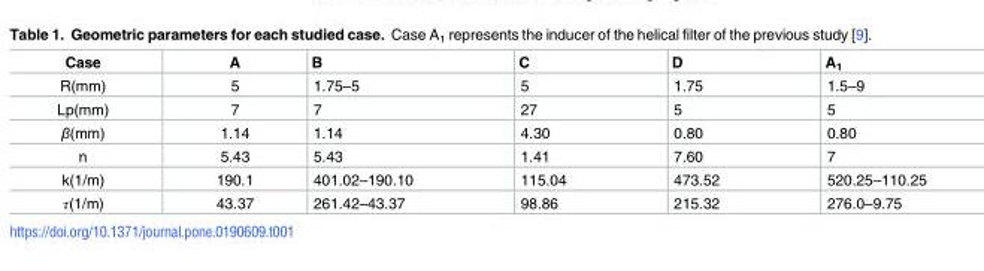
<table><thead><tr><td>Case</td><td>A</td><td>B</td><td>C</td><td>D</td><td>A<sub>1</sub></td></tr></thead><tbody><tr><td>R(mm)</td><td>5</td><td>1.75–5</td><td>5</td><td>1.75</td><td>1.5–9</td></tr><tr><td>Lp(mm)</td><td>7</td><td>7</td><td>27</td><td>5</td><td>5</td></tr><tr><td>β(mm)</td><td>1.14</td><td>1.14</td><td>4.30</td><td>0.80</td><td>0.80</td></tr><tr><td>n</td><td>5.43</td><td>5.43</td><td>1.41</td><td>7.60</td><td>7</td></tr><tr><td>k(1/m)</td><td>190.1</td><td>401.02–190.10</td><td>115.04</td><td>473.52</td><td>520.25–110.25</td></tr><tr><td>τ(1/m)</td><td>43.37</td><td>261.42–43.37</td><td>98.86</td><td>215.32</td><td>276.0–9.75</td></tr></tbody></table>